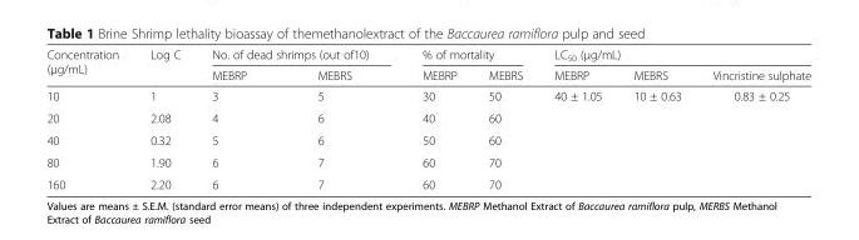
<table><thead><tr><td rowspan="2">Concentration (μg/mL)</td><td rowspan="2">Log C</td><td colspan="2">No. of dead shrimps (out of10)</td><td colspan="2">% of mortality</td><td colspan="3">LC<sub>50</sub> (μg/mL)</td></tr><tr><td>MEBRP</td><td>MEBRS</td><td>MEBRP</td><td>MEBRS</td><td>MEBRP</td><td>MEBRS</td><td>Vincristine sulphate</td></tr></thead><tbody><tr><td>10</td><td>1</td><td>3</td><td>5</td><td>30</td><td>50</td><td rowspan="5">40 ± 1.05</td><td rowspan="5">10 ± 0.63</td><td rowspan="5">0.83 ± 0.25</td></tr><tr><td>20</td><td>2.08</td><td>4</td><td>6</td><td>40</td><td>60</td></tr><tr><td>40</td><td>0.32</td><td>5</td><td>6</td><td>50</td><td>60</td></tr><tr><td>80</td><td>1.90</td><td>6</td><td>7</td><td>60</td><td>70</td></tr><tr><td>160</td><td>2.20</td><td>6</td><td>7</td><td>60</td><td>70</td></tr></tbody></table>